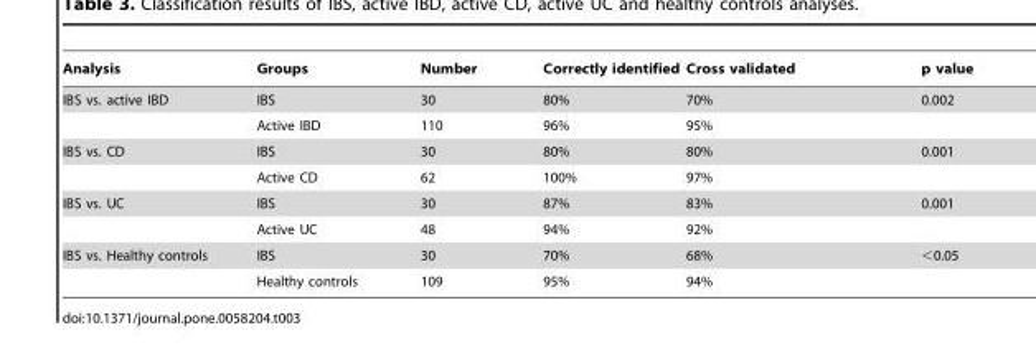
<table><thead><tr><td>Analysis</td><td>Groups</td><td>Number</td><td>Correctly identified</td><td>Cross validated</td><td>p value</td></tr></thead><tbody><tr><td rowspan="2">IBS vs. active IBD</td><td>IBS</td><td>30</td><td>80%</td><td>70%</td><td>0.002</td></tr><tr><td>Active IBD</td><td>110</td><td>96%</td><td>95%</td><td></td></tr><tr><td rowspan="2">IBS vs. CD</td><td>IBS</td><td>30</td><td>80%</td><td>80%</td><td>0.001</td></tr><tr><td>Active CD</td><td>62</td><td>100%</td><td>97%</td><td></td></tr><tr><td rowspan="2">IBS vs. UC</td><td>IBS</td><td>30</td><td>87%</td><td>83%</td><td>0.001</td></tr><tr><td>Active UC</td><td>48</td><td>94%</td><td>92%</td><td></td></tr><tr><td rowspan="2">IBS vs. Healthy controls</td><td>IBS</td><td>30</td><td>70%</td><td>68%</td><td>&lt;0.05</td></tr><tr><td>Healthy controls</td><td>109</td><td>95%</td><td>94%</td><td></td></tr></tbody></table>